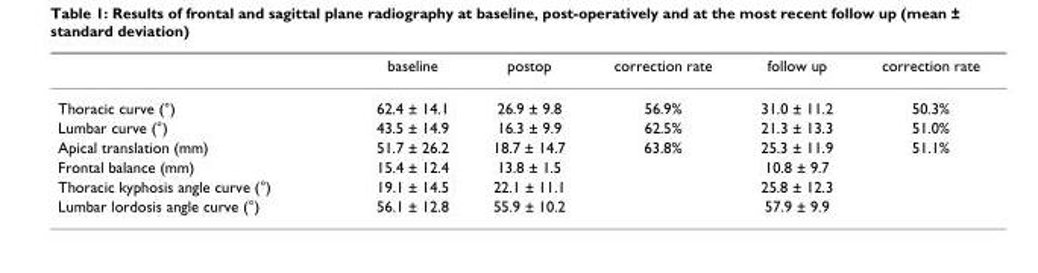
<table><thead><tr><td></td><td>baseline</td><td>postop</td><td>correction rate</td><td>follow up</td><td>correction rate</td></tr></thead><tbody><tr><td>Thoracic curve (°)</td><td>62.4 ± 14.1</td><td>26.9 ± 9.8</td><td>56.9%</td><td>31.0 ± 11.2</td><td>50.3%</td></tr><tr><td>Lumbar curve (°)</td><td>43.5 ± 14.9</td><td>16.3 ± 9.9</td><td>62.5%</td><td>21.3 ± 13.3</td><td>51.0%</td></tr><tr><td>Apical translation (mm)</td><td>51.7 ± 26.2</td><td>18.7 ± 14.7</td><td>63.8%</td><td>25.3 ± 11.9</td><td>51.1%</td></tr><tr><td>Frontal balance (mm)</td><td>15.4 ± 12.4</td><td>13.8 ± 1.5</td><td></td><td>10.8 ± 9.7</td><td></td></tr><tr><td>Thoracic kyphosis angle curve (°)</td><td>19.1 ± 14.5</td><td>22.1 ± 11.1</td><td></td><td>25.8 ± 12.3</td><td></td></tr><tr><td>Lumbar lordosis angle curve (°)</td><td>56.1 ± 12.8</td><td>55.9 ± 10.2</td><td></td><td>57.9 ± 9.9</td><td></td></tr></tbody></table>